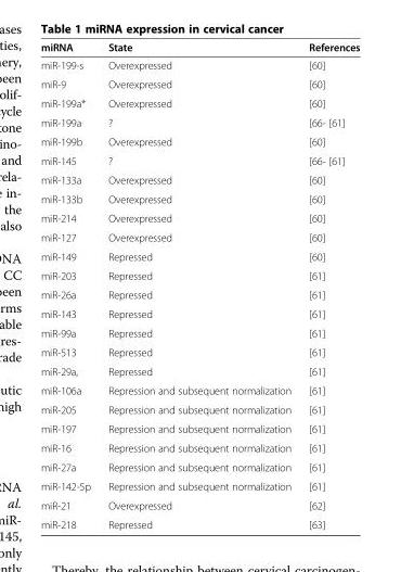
<table><thead><tr><td>miRNA</td><td>State</td><td>References</td></tr></thead><tbody><tr><td>miR-199-s</td><td>Overexpressed</td><td>[60]</td></tr><tr><td>miR-9</td><td>Overexpressed</td><td>[60]</td></tr><tr><td>miR-199a*</td><td>Overexpressed</td><td>[60]</td></tr><tr><td>miR-199a</td><td>?</td><td>[66- [61]</td></tr><tr><td>miR-199b</td><td>Overexpressed</td><td>[60]</td></tr><tr><td>miR-145</td><td>?</td><td>[66- [61]</td></tr><tr><td>miR-133a</td><td>Overexpressed</td><td>[60]</td></tr><tr><td>miR-133b</td><td>Overexpressed</td><td>[60]</td></tr><tr><td>miR-214</td><td>Overexpressed</td><td>[60]</td></tr><tr><td>miR-127</td><td>Overexpressed</td><td>[60]</td></tr><tr><td>miR-149</td><td>Repressed</td><td>[60]</td></tr><tr><td>miR-203</td><td>Repressed</td><td>[61]</td></tr><tr><td>miR-26a</td><td>Repressed</td><td>[61]</td></tr><tr><td>miR-143</td><td>Repressed</td><td>[61]</td></tr><tr><td>miR-99a</td><td>Repressed</td><td>[61]</td></tr><tr><td>miR-513</td><td>Repressed</td><td>[61]</td></tr><tr><td>miR-29a,</td><td>Repressed</td><td>[61]</td></tr><tr><td>miR-106a</td><td>Repression and subsequent normalization</td><td>[61]</td></tr><tr><td>miR-205</td><td>Repression and subsequent normalization</td><td>[61]</td></tr><tr><td>miR-197</td><td>Repression and subsequent normalization</td><td>[61]</td></tr><tr><td>miR-16</td><td>Repression and subsequent normalization</td><td>[61]</td></tr><tr><td>miR-27a</td><td>Repression and subsequent normalization</td><td>[61]</td></tr><tr><td>miR-142-5p</td><td>Repression and subsequent normalization</td><td>[61]</td></tr><tr><td>miR-21</td><td>Overexpressed</td><td>[62]</td></tr><tr><td>miR-218</td><td>Repressed</td><td>[63]</td></tr></tbody></table>